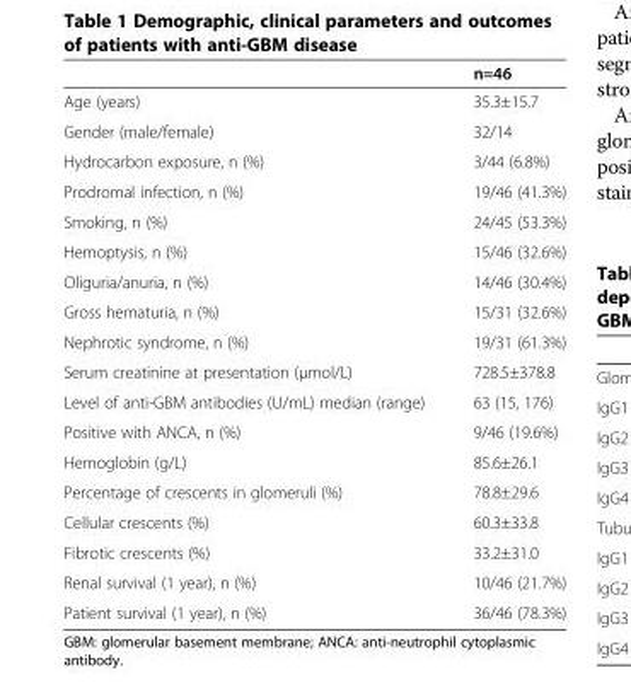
<table><thead><tr><td></td><td>n=46</td></tr></thead><tbody><tr><td>Age (years)</td><td>35.3±15.7</td></tr><tr><td>Gender (male/female)</td><td>32/14</td></tr><tr><td>Hydrocarbon exposure, n (%)</td><td>3/44 (6.8%)</td></tr><tr><td>Prodromal infection, n (%)</td><td>19/46 (41.3%)</td></tr><tr><td>Smoking, n (%)</td><td>24/45 (53.3%)</td></tr><tr><td>Hemoptysis, n (%)</td><td>15/46 (32.6%)</td></tr><tr><td>Oliguria/anuria, n (%)</td><td>14/46 (30.4%)</td></tr><tr><td>Gross hematuria, n (%)</td><td>15/31 (32.6%)</td></tr><tr><td>Nephrotic syndrome, n (%)</td><td>19/31 (61.3%)</td></tr><tr><td>Serum creatinine at presentation (μmol/L)</td><td>728.5±378.8</td></tr><tr><td>Level of anti-GBM antibodies (U/mL) median (range)</td><td>63 (15, 176)</td></tr><tr><td>Positive with ANCA, n (%)</td><td>9/46 (19.6%)</td></tr><tr><td>Hemoglobin (g/L)</td><td>85.6±26.1</td></tr><tr><td>Percentage of crescents in glomeruli (%)</td><td>78.8±29.6</td></tr><tr><td>Cellular crescents (%)</td><td>60.3±33.8</td></tr><tr><td>Fibrotic crescents (%)</td><td>33.2±31.0</td></tr><tr><td>Renal survival (1 year), n (%)</td><td>10/46 (21.7%)</td></tr><tr><td>Patient survival (1 year), n (%)</td><td>36/46 (78.3%)</td></tr></tbody></table>